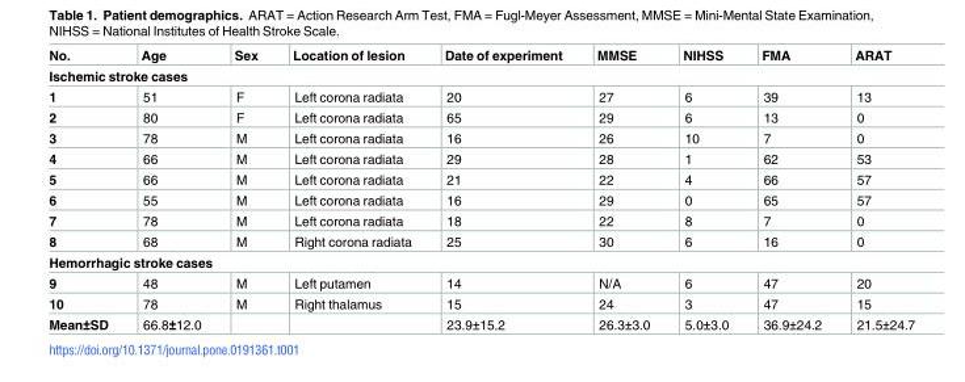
<table><thead><tr><td>No.</td><td>Age</td><td>Sex</td><td>Location of lesion</td><td>Date of experiment</td><td>MMSE</td><td>NIHSS</td><td>FMA</td><td>ARAT</td></tr></thead><tbody><tr><td colspan="9">Ischemic stroke cases</td></tr><tr><td>1</td><td>51</td><td>F</td><td>Left corona radiata</td><td>20</td><td>27</td><td>6</td><td>39</td><td>13</td></tr><tr><td>2</td><td>80</td><td>F</td><td>Left corona radiata</td><td>65</td><td>29</td><td>6</td><td>13</td><td>0</td></tr><tr><td>3</td><td>78</td><td>M</td><td>Left corona radiata</td><td>16</td><td>26</td><td>10</td><td>7</td><td>0</td></tr><tr><td>4</td><td>66</td><td>M</td><td>Left corona radiata</td><td>29</td><td>28</td><td>1</td><td>62</td><td>53</td></tr><tr><td>5</td><td>66</td><td>M</td><td>Left corona radiata</td><td>21</td><td>22</td><td>4</td><td>66</td><td>57</td></tr><tr><td>6</td><td>55</td><td>M</td><td>Left corona radiata</td><td>16</td><td>29</td><td>0</td><td>65</td><td>57</td></tr><tr><td>7</td><td>78</td><td>M</td><td>Left corona radiata</td><td>18</td><td>22</td><td>8</td><td>7</td><td>0</td></tr><tr><td>8</td><td>68</td><td>M</td><td>Right corona radiata</td><td>25</td><td>30</td><td>6</td><td>16</td><td>0</td></tr><tr><td colspan="9">Hemorrhagic stroke cases</td></tr><tr><td>9</td><td>48</td><td>M</td><td>Left putamen</td><td>14</td><td>N/A</td><td>6</td><td>47</td><td>20</td></tr><tr><td>10</td><td>78</td><td>M</td><td>Right thalamus</td><td>15</td><td>24</td><td>3</td><td>47</td><td>15</td></tr><tr><td>Mean±SD</td><td>66.8±12.0</td><td></td><td></td><td>23.9±15.2</td><td>26.3±3.0</td><td>5.0±3.0</td><td>36.9±24.2</td><td>21.5±24.7</td></tr></tbody></table>